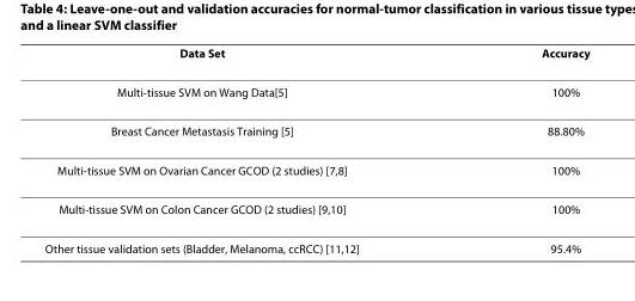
<table><thead><tr><td>Data Set</td><td>Accuracy</td></tr></thead><tbody><tr><td>Multi-tissue SVM on Wang Data[5]</td><td>100%</td></tr><tr><td>Breast Cancer Metastasis Training [5]</td><td>88.80%</td></tr><tr><td>Multi-tissue SVM on Ovarian Cancer GCOD (2 studies) [7,8]</td><td>100%</td></tr><tr><td>Multi-tissue SVM on Colon Cancer GCOD (2 studies) [9,10]</td><td>100%</td></tr><tr><td>Other tissue validation sets (Bladder, Melanoma, ccRCC) [11,12]</td><td>95.4%</td></tr></tbody></table>